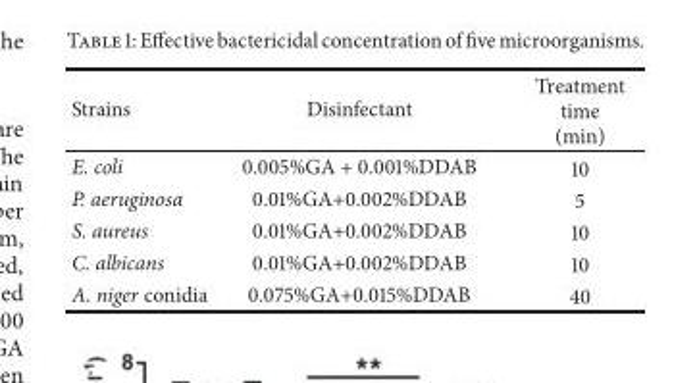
<table><thead><tr><td>Strains</td><td>Disinfectant</td><td>Treatment time (min)</td></tr></thead><tbody><tr><td>E. coli</td><td>0.005%GA + 0.001%DDAB</td><td>10</td></tr><tr><td>P. aeruginosa</td><td>0.01%GA+0.002%DDAB</td><td>5</td></tr><tr><td>S. aureus</td><td>0.01%GA+0.002%DDAB</td><td>10</td></tr><tr><td>C. albicans</td><td>0.01%GA+0.002%DDAB</td><td>10</td></tr><tr><td>A. niger conidia</td><td>0.075%GA+0.015%DDAB</td><td>40</td></tr></tbody></table>